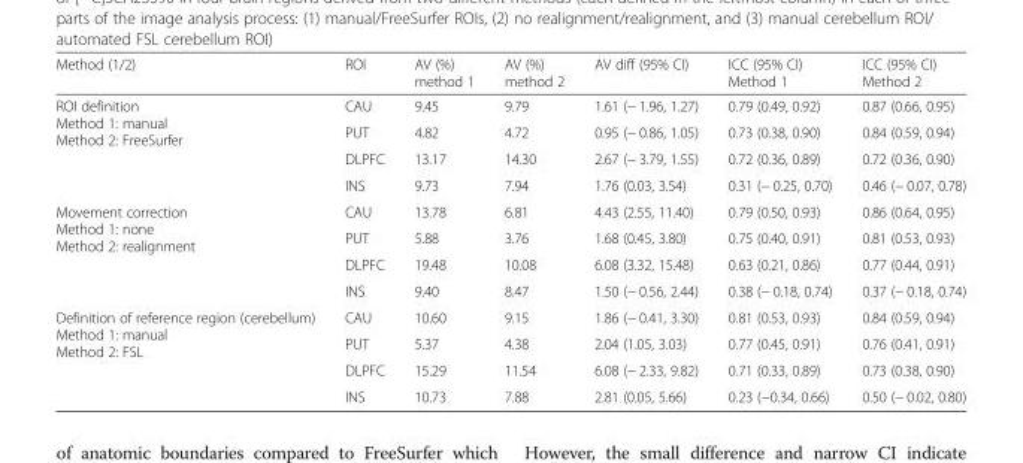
<table><thead><tr><td>Method (1/2)</td><td>ROI</td><td>AV (%) method 1</td><td>AV (%) method 2</td><td>AV diff (95% CI)</td><td>ICC (95% CI) Method 1</td><td>ICC (95% CI) Method 2</td></tr></thead><tbody><tr><td rowspan="4">ROI definition Method 1: manual Method 2: FreeSurfer</td><td>CAU</td><td>9.45</td><td>9.79</td><td>1.61 (− 1.96, 1.27)</td><td>0.79 (0.49, 0.92)</td><td>0.87 (0.66, 0.95)</td></tr><tr><td>PUT</td><td>4.82</td><td>4.72</td><td>0.95 (− 0.86, 1.05)</td><td>0.73 (0.38, 0.90)</td><td>0.84 (0.59, 0.94)</td></tr><tr><td>DLPFC</td><td>13.17</td><td>14.30</td><td>2.67 (− 3.79, 1.55)</td><td>0.72 (0.36, 0.89)</td><td>0.72 (0.36, 0.90)</td></tr><tr><td>INS</td><td>9.73</td><td>7.94</td><td>1.76 (0.03, 3.54)</td><td>0.31 (− 0.25, 0.70)</td><td>0.46 (− 0.07, 0.78)</td></tr><tr><td rowspan="4">Movement correction Method 1: none Method 2: realignment</td><td>CAU</td><td>13.78</td><td>6.81</td><td>4.43 (2.55, 11.40)</td><td>0.79 (0.50, 0.93)</td><td>0.86 (0.64, 0.95)</td></tr><tr><td>PUT</td><td>5.88</td><td>3.76</td><td>1.68 (0.45, 3.80)</td><td>0.75 (0.40, 0.91)</td><td>0.81 (0.53, 0.93)</td></tr><tr><td>DLPFC</td><td>19.48</td><td>10.08</td><td>6.08 (3.32, 15.48)</td><td>0.63 (0.21, 0.86)</td><td>0.77 (0.44, 0.91)</td></tr><tr><td>INS</td><td>9.40</td><td>8.47</td><td>1.50 (− 0.56, 2.44)</td><td>0.38 (− 0.18, 0.74)</td><td>0.37 (− 0.18, 0.74)</td></tr><tr><td rowspan="4">Definition of reference region (cerebellum) Method 1: manual Method 2: FSL</td><td>CAU</td><td>10.60</td><td>9.15</td><td>1.86 (− 0.41, 3.30)</td><td>0.81 (0.53, 0.93)</td><td>0.84 (0.59, 0.94)</td></tr><tr><td>PUT</td><td>5.37</td><td>4.38</td><td>2.04 (1.05, 3.03)</td><td>0.77 (0.45, 0.91)</td><td>0.76 (0.41, 0.91)</td></tr><tr><td>DLPFC</td><td>15.29</td><td>11.54</td><td>6.08 (− 2.33, 9.82)</td><td>0.71 (0.33, 0.89)</td><td>0.73 (0.38, 0.90)</td></tr><tr><td>INS</td><td>10.73</td><td>7.88</td><td>2.81 (0.05, 5.66)</td><td>0.23 (−0.34, 0.66)</td><td>0.50 (− 0.02, 0.80)</td></tr></tbody></table>